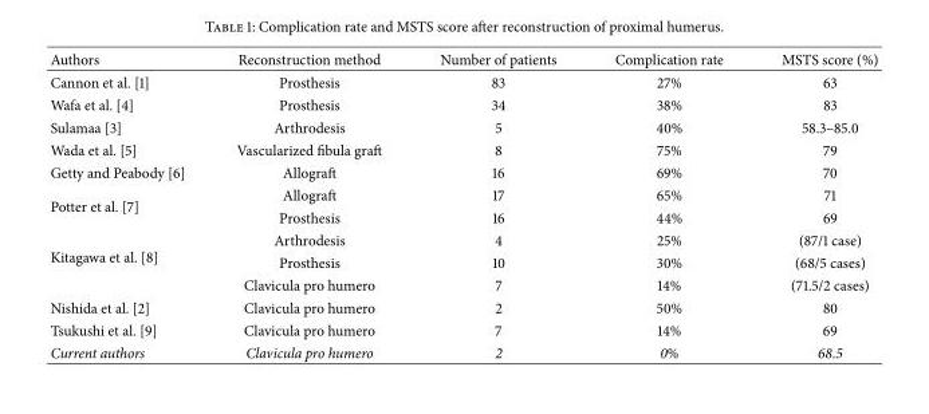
<table><thead><tr><td>Authors</td><td>Reconstruction method</td><td>Number of patients</td><td>Complication rate</td><td>MSTS score (%)</td></tr></thead><tbody><tr><td>Cannon et al. [1]</td><td>Prosthesis</td><td>83</td><td>27%</td><td>63</td></tr><tr><td>Wafa et al. [4]</td><td>Prosthesis</td><td>34</td><td>38%</td><td>83</td></tr><tr><td>Sulamaa [3]</td><td>Arthrodesis</td><td>5</td><td>40%</td><td>58.3–85.0</td></tr><tr><td>Wada et al. [5]</td><td>Vascularized fibula graft</td><td>8</td><td>75%</td><td>79</td></tr><tr><td>Getty and Peabody [6]</td><td>Allograft</td><td>16</td><td>69%</td><td>70</td></tr><tr><td rowspan="2">Potter et al. [7]</td><td>Allograft</td><td>17</td><td>65%</td><td>71</td></tr><tr><td>Prosthesis</td><td>16</td><td>44%</td><td>69</td></tr><tr><td rowspan="3">Kitagawa et al. [8]</td><td>Arthrodesis</td><td>4</td><td>25%</td><td>(87/1 case)</td></tr><tr><td>Prosthesis</td><td>10</td><td>30%</td><td>(68/5 cases)</td></tr><tr><td>Clavicula pro humero</td><td>7</td><td>14%</td><td>(71.5/2 cases)</td></tr><tr><td>Nishida et al. [2]</td><td>Clavicula pro humero</td><td>2</td><td>50%</td><td>80</td></tr><tr><td>Tsukushi et al. [9]</td><td>Clavicula pro humero</td><td>7</td><td>14%</td><td>69</td></tr><tr><td>Current authors</td><td>Clavicula pro humero</td><td>2</td><td>0%</td><td>68.5</td></tr></tbody></table>